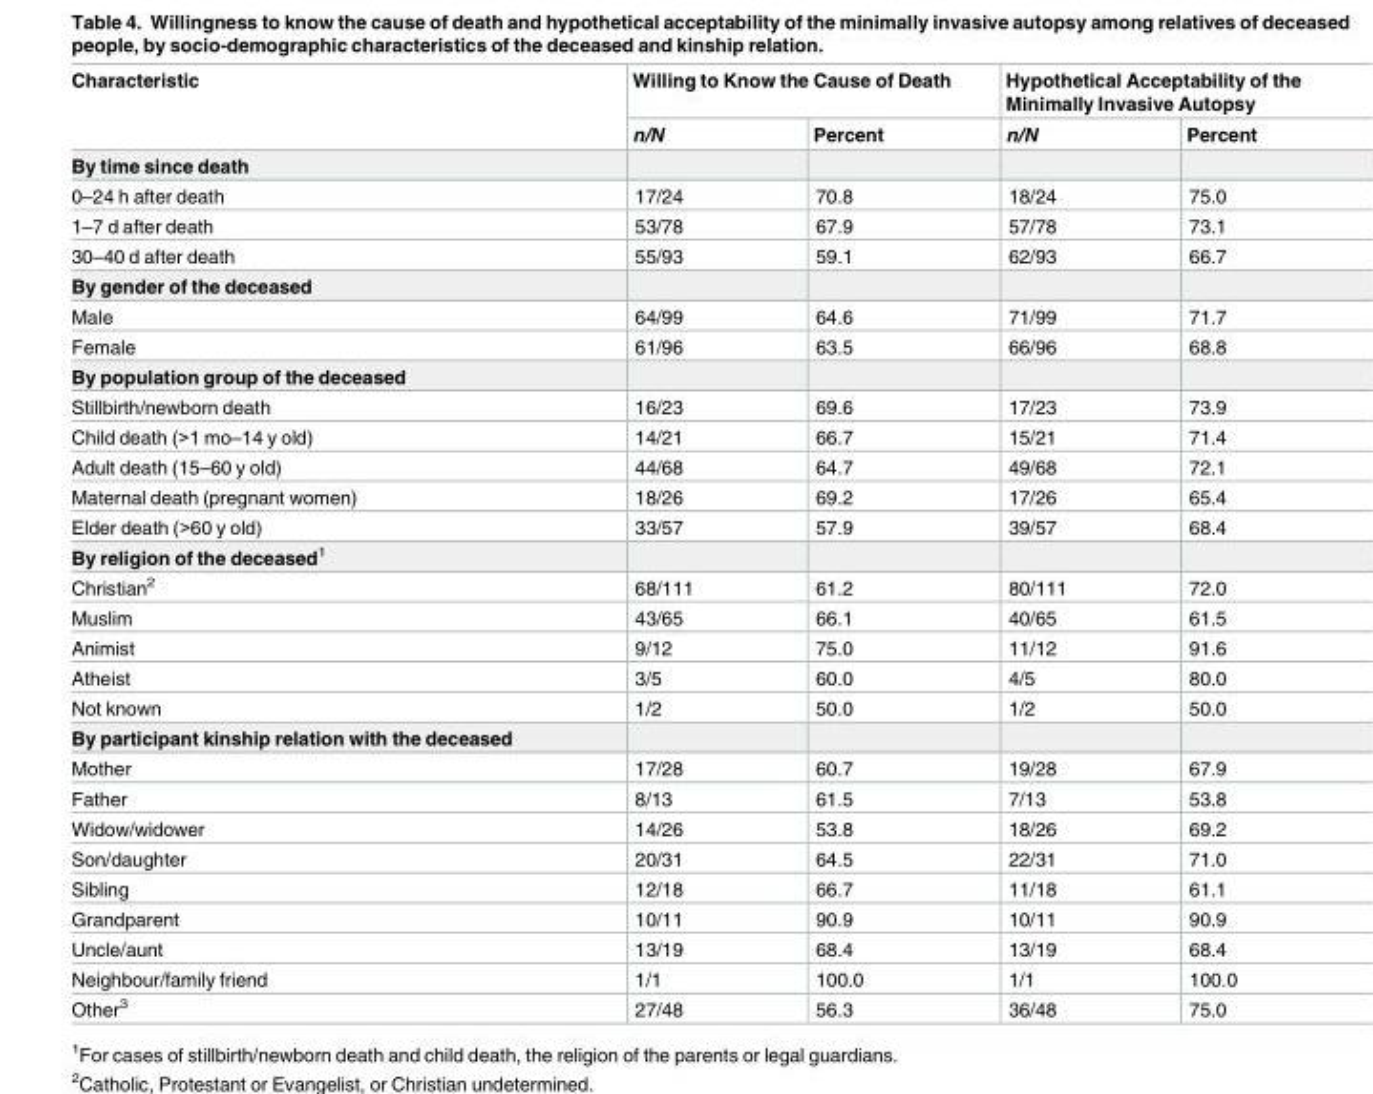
<table><thead><tr><td rowspan="2">Characteristic</td><td colspan="2">Willing to Know the Cause of Death</td><td colspan="2">Hypothetical Acceptability of the Minimally Invasive Autopsy</td></tr><tr><td>n/N</td><td>Percent</td><td>n/N</td><td>Percent</td></tr></thead><tbody><tr><td colspan="5">By time since death</td></tr><tr><td>0–24 h after death</td><td>17/24</td><td>70.8</td><td>18/24</td><td>75.0</td></tr><tr><td>1–7 d after death</td><td>53/78</td><td>67.9</td><td>57/78</td><td>73.1</td></tr><tr><td>30–40 d after death</td><td>55/93</td><td>59.1</td><td>62/93</td><td>66.7</td></tr><tr><td colspan="5">By gender of the deceased</td></tr><tr><td>Male</td><td>64/99</td><td>64.6</td><td>71/99</td><td>71.7</td></tr><tr><td>Female</td><td>61/96</td><td>63.5</td><td>66/96</td><td>68.8</td></tr><tr><td colspan="5">By population group of the deceased</td></tr><tr><td>Stillbirth/newborn death</td><td>16/23</td><td>69.6</td><td>17/23</td><td>73.9</td></tr><tr><td>Child death (&gt;1 mo–14 y old)</td><td>14/21</td><td>66.7</td><td>15/21</td><td>71.4</td></tr><tr><td>Adult death (15–60 y old)</td><td>44/68</td><td>64.7</td><td>49/68</td><td>72.1</td></tr><tr><td>Maternal death (pregnant women)</td><td>18/26</td><td>69.2</td><td>17/26</td><td>65.4</td></tr><tr><td>Elder death (&gt;60 y old)</td><td>33/57</td><td>57.9</td><td>39/57</td><td>68.4</td></tr><tr><td colspan="5">By religion of the deceased<sup>1</sup></td></tr><tr><td>Christian<sup>2</sup></td><td>68/111</td><td>61.2</td><td>80/111</td><td>72.0</td></tr><tr><td>Muslim</td><td>43/65</td><td>66.1</td><td>40/65</td><td>61.5</td></tr><tr><td>Animist</td><td>9/12</td><td>75.0</td><td>11/12</td><td>91.6</td></tr><tr><td>Atheist</td><td>3/5</td><td>60.0</td><td>4/5</td><td>80.0</td></tr><tr><td>Not known</td><td>1/2</td><td>50.0</td><td>1/2</td><td>50.0</td></tr><tr><td colspan="5">By participant kinship relation with the deceased</td></tr><tr><td>Mother</td><td>17/28</td><td>60.7</td><td>19/28</td><td>67.9</td></tr><tr><td>Father</td><td>8/13</td><td>61.5</td><td>7/13</td><td>53.8</td></tr><tr><td>Widow/widower</td><td>14/26</td><td>53.8</td><td>18/26</td><td>69.2</td></tr><tr><td>Son/daughter</td><td>20/31</td><td>64.5</td><td>22/31</td><td>71.0</td></tr><tr><td>Sibling</td><td>12/18</td><td>66.7</td><td>11/18</td><td>61.1</td></tr><tr><td>Grandparent</td><td>10/11</td><td>90.9</td><td>10/11</td><td>90.9</td></tr><tr><td>Uncle/aunt</td><td>13/19</td><td>68.4</td><td>13/19</td><td>68.4</td></tr><tr><td>Neighbour/family friend</td><td>1/1</td><td>100.0</td><td>1/1</td><td>100.0</td></tr><tr><td>Other<sup>3</sup></td><td>27/48</td><td>56.3</td><td>36/48</td><td>75.0</td></tr></tbody></table>